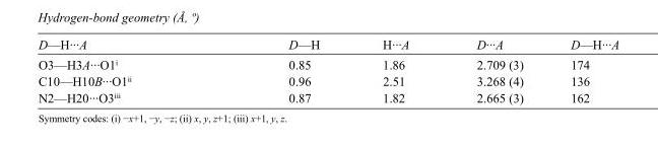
<table><tbody><tr><td>D—H···A</td><td>D—H</td><td>H···A</td><td>D···A</td><td>D—H···A</td></tr><tr><td>O3—H3A···O1<sup>i</sup></td><td>0.85</td><td>1.86</td><td>2.709 (3)</td><td>174</td></tr><tr><td>C10—H10B···O1<sup>ii</sup></td><td>0.96</td><td>2.51</td><td>3.268 (4)</td><td>136</td></tr><tr><td>N2—H20···O3<sup>iii</sup></td><td>0.87</td><td>1.82</td><td>2.665 (3)</td><td>162</td></tr></tbody></table>